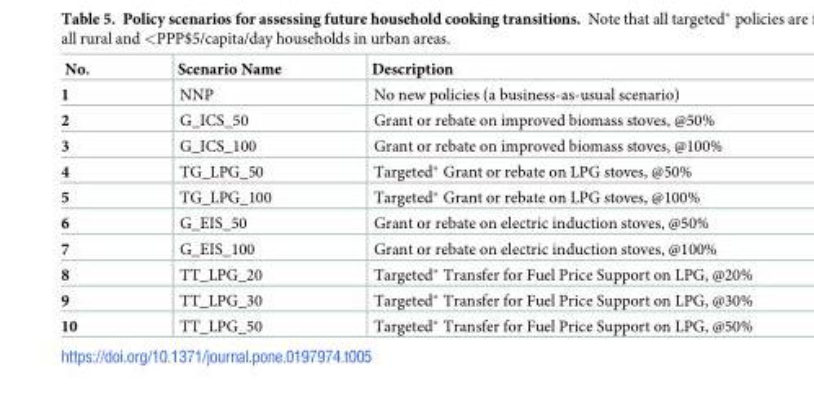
<table><thead><tr><td>No.</td><td>Scenario Name</td><td>Description</td></tr></thead><tbody><tr><td>1</td><td>NNP</td><td>No new policies (a business-as-usual scenario)</td></tr><tr><td>2</td><td>G_ICS_50</td><td>Grant or rebate on improved biomass stoves, @50%</td></tr><tr><td>3</td><td>G_ICS_100</td><td>Grant or rebate on improved biomass stoves, @100%</td></tr><tr><td>4</td><td>TG_LPG_50</td><td>Targeted* Grant or rebate on LPG stoves, @50%</td></tr><tr><td>5</td><td>TG_LPG_100</td><td>Targeted* Grant or rebate on LPG stoves, @100%</td></tr><tr><td>6</td><td>G_EIS_50</td><td>Grant or rebate on electric induction stoves, @50%</td></tr><tr><td>7</td><td>G_EIS_100</td><td>Grant or rebate on electric induction stoves, @100%</td></tr><tr><td>8</td><td>TT_LPG_20</td><td>Targeted* Transfer for Fuel Price Support on LPG, @20%</td></tr><tr><td>9</td><td>TT_LPG_30</td><td>Targeted* Transfer for Fuel Price Support on LPG, @30%</td></tr><tr><td>10</td><td>TT_LPG_50</td><td>Targeted* Transfer for Fuel Price Support on LPG, @50%</td></tr></tbody></table>